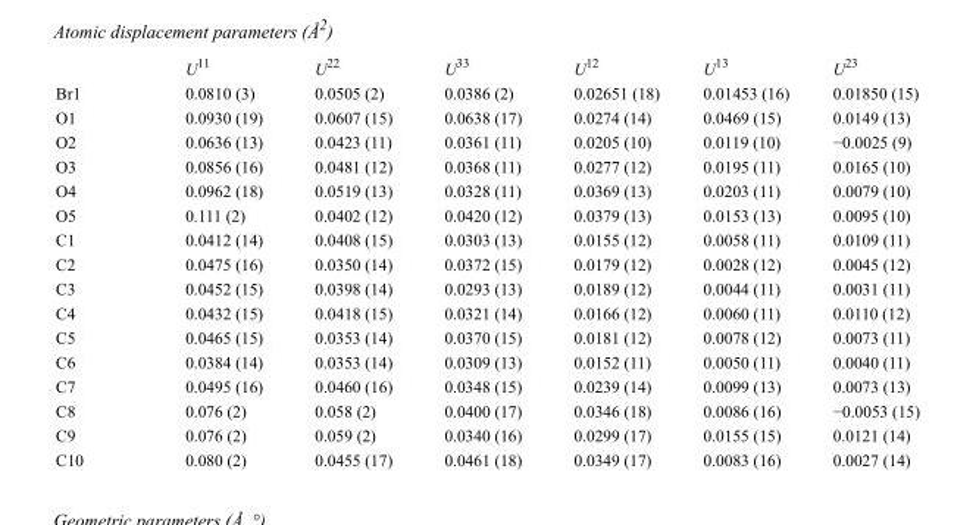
<table><thead><tr><td></td><td>U<sup>11</sup></td><td>U<sup>22</sup></td><td>U<sup>33</sup></td><td>U<sup>12</sup></td><td>U<sup>13</sup></td><td>U<sup>23</sup></td></tr></thead><tbody><tr><td>Br1</td><td>0.0810 (3)</td><td>0.0505 (2)</td><td>0.0386 (2)</td><td>0.02651 (18)</td><td>0.01453 (16)</td><td>0.01850 (15)</td></tr><tr><td>O1</td><td>0.0930 (19)</td><td>0.0607 (15)</td><td>0.0638 (17)</td><td>0.0274 (14)</td><td>0.0469 (15)</td><td>0.0149 (13)</td></tr><tr><td>O2</td><td>0.0636 (13)</td><td>0.0423 (11)</td><td>0.0361 (11)</td><td>0.0205 (10)</td><td>0.0119 (10)</td><td>−0.0025 (9)</td></tr><tr><td>O3</td><td>0.0856 (16)</td><td>0.0481 (12)</td><td>0.0368 (11)</td><td>0.0277 (12)</td><td>0.0195 (11)</td><td>0.0165 (10)</td></tr><tr><td>O4</td><td>0.0962 (18)</td><td>0.0519 (13)</td><td>0.0328 (11)</td><td>0.0369 (13)</td><td>0.0203 (11)</td><td>0.0079 (10)</td></tr><tr><td>O5</td><td>0.111 (2)</td><td>0.0402 (12)</td><td>0.0420 (12)</td><td>0.0379 (13)</td><td>0.0153 (13)</td><td>0.0095 (10)</td></tr><tr><td>C1</td><td>0.0412 (14)</td><td>0.0408 (15)</td><td>0.0303 (13)</td><td>0.0155 (12)</td><td>0.0058 (11)</td><td>0.0109 (11)</td></tr><tr><td>C2</td><td>0.0475 (16)</td><td>0.0350 (14)</td><td>0.0372 (15)</td><td>0.0179 (12)</td><td>0.0028 (12)</td><td>0.0045 (12)</td></tr><tr><td>C3</td><td>0.0452 (15)</td><td>0.0398 (14)</td><td>0.0293 (13)</td><td>0.0189 (12)</td><td>0.0044 (11)</td><td>0.0031 (11)</td></tr><tr><td>C4</td><td>0.0432 (15)</td><td>0.0418 (15)</td><td>0.0321 (14)</td><td>0.0166 (12)</td><td>0.0060 (11)</td><td>0.0110 (12)</td></tr><tr><td>C5</td><td>0.0465 (15)</td><td>0.0353 (14)</td><td>0.0370 (15)</td><td>0.0181 (12)</td><td>0.0078 (12)</td><td>0.0073 (11)</td></tr><tr><td>C6</td><td>0.0384 (14)</td><td>0.0353 (14)</td><td>0.0309 (13)</td><td>0.0152 (11)</td><td>0.0050 (11)</td><td>0.0040 (11)</td></tr><tr><td>C7</td><td>0.0495 (16)</td><td>0.0460 (16)</td><td>0.0348 (15)</td><td>0.0239 (14)</td><td>0.0099 (13)</td><td>0.0073 (13)</td></tr><tr><td>C8</td><td>0.076 (2)</td><td>0.058 (2)</td><td>0.0400 (17)</td><td>0.0346 (18)</td><td>0.0086 (16)</td><td>−0.0053 (15)</td></tr><tr><td>C9</td><td>0.076 (2)</td><td>0.059 (2)</td><td>0.0340 (16)</td><td>0.0299 (17)</td><td>0.0155 (15)</td><td>0.0121 (14)</td></tr><tr><td>C10</td><td>0.080 (2)</td><td>0.0455 (17)</td><td>0.0461 (18)</td><td>0.0349 (17)</td><td>0.0083 (16)</td><td>0.0027 (14)</td></tr></tbody></table>